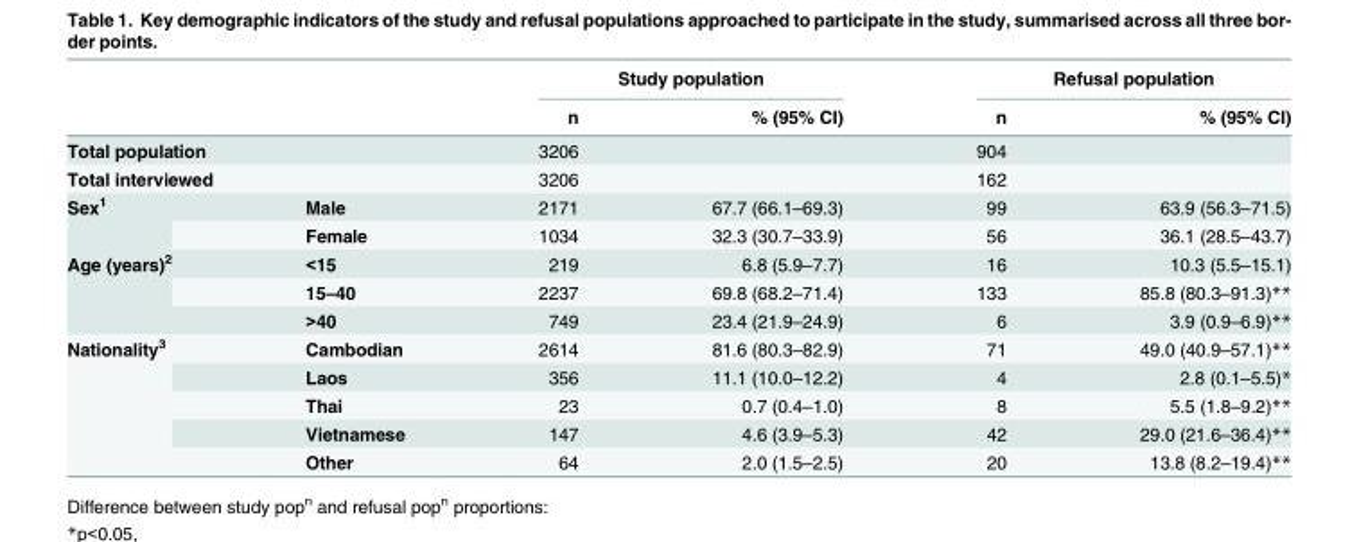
<table><thead><tr><td rowspan="2"></td><td rowspan="2"></td><td colspan="2">Study population</td><td colspan="2">Refusal population</td></tr><tr><td>n</td><td>% (95% CI)</td><td>n</td><td>% (95% CI)</td></tr></thead><tbody><tr><td colspan="2">Total population</td><td>3206</td><td></td><td>904</td><td></td></tr><tr><td colspan="2">Total interviewed</td><td>3206</td><td></td><td>162</td><td></td></tr><tr><td rowspan="2">Sex<sup>1</sup></td><td>Male</td><td>2171</td><td>67.7 (66.1–69.3)</td><td>99</td><td>63.9 (56.3–71.5)</td></tr><tr><td>Female</td><td>1034</td><td>32.3 (30.7–33.9)</td><td>56</td><td>36.1 (28.5–43.7)</td></tr><tr><td rowspan="3">Age (years)<sup>2</sup></td><td>&lt;15</td><td>219</td><td>6.8 (5.9–7.7)</td><td>16</td><td>10.3 (5.5–15.1)</td></tr><tr><td>15–40</td><td>2237</td><td>69.8 (68.2–71.4)</td><td>133</td><td>85.8 (80.3–91.3)**</td></tr><tr><td>&gt;40</td><td>749</td><td>23.4 (21.9–24.9)</td><td>6</td><td>3.9 (0.9–6.9)**</td></tr><tr><td rowspan="5">Nationality<sup>3</sup></td><td>Cambodian</td><td>2614</td><td>81.6 (80.3–82.9)</td><td>71</td><td>49.0 (40.9–57.1)**</td></tr><tr><td>Laos</td><td>356</td><td>11.1 (10.0–12.2)</td><td>4</td><td>2.8 (0.1–5.5)*</td></tr><tr><td>Thai</td><td>23</td><td>0.7 (0.4–1.0)</td><td>8</td><td>5.5 (1.8–9.2)**</td></tr><tr><td>Vietnamese</td><td>147</td><td>4.6 (3.9–5.3)</td><td>42</td><td>29.0 (21.6–36.4)**</td></tr><tr><td>Other</td><td>64</td><td>2.0 (1.5–2.5)</td><td>20</td><td>13.8 (8.2–19.4)**</td></tr></tbody></table>